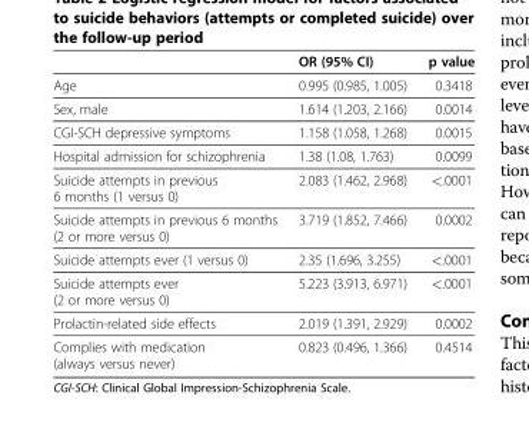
<table><thead><tr><td></td><td>OR (95% CI)</td><td>p value</td></tr></thead><tbody><tr><td>Age</td><td>0.995 (0.985, 1.005)</td><td>0.3418</td></tr><tr><td>Sex, male</td><td>1.614 (1.203, 2.166)</td><td>0.0014</td></tr><tr><td>CGI-SCH depressive symptoms</td><td>1.158 (1.058, 1.268)</td><td>0.0015</td></tr><tr><td>Hospital admission for schizophrenia</td><td>1.38 (1.08, 1.763)</td><td>0.0099</td></tr><tr><td>Suicide attempts in previous 6 months (1 versus 0)</td><td>2.083 (1.462, 2.968)</td><td>&lt;.0001</td></tr><tr><td>Suicide attempts in previous 6 months (2 or more versus 0)</td><td>3.719 (1.852, 7.466)</td><td>0.0002</td></tr><tr><td>Suicide attempts ever (1 versus 0)</td><td>2.35 (1.696, 3.255)</td><td>&lt;.0001</td></tr><tr><td>Suicide attempts ever (2 or more versus 0)</td><td>5.223 (3.913, 6.971)</td><td>&lt;.0001</td></tr><tr><td>Prolactin-related side effects</td><td>2.019 (1.391, 2.929)</td><td>0.0002</td></tr><tr><td>Complies with medication (always versus never)</td><td>0.823 (0.496, 1.366)</td><td>0.4514</td></tr></tbody></table>